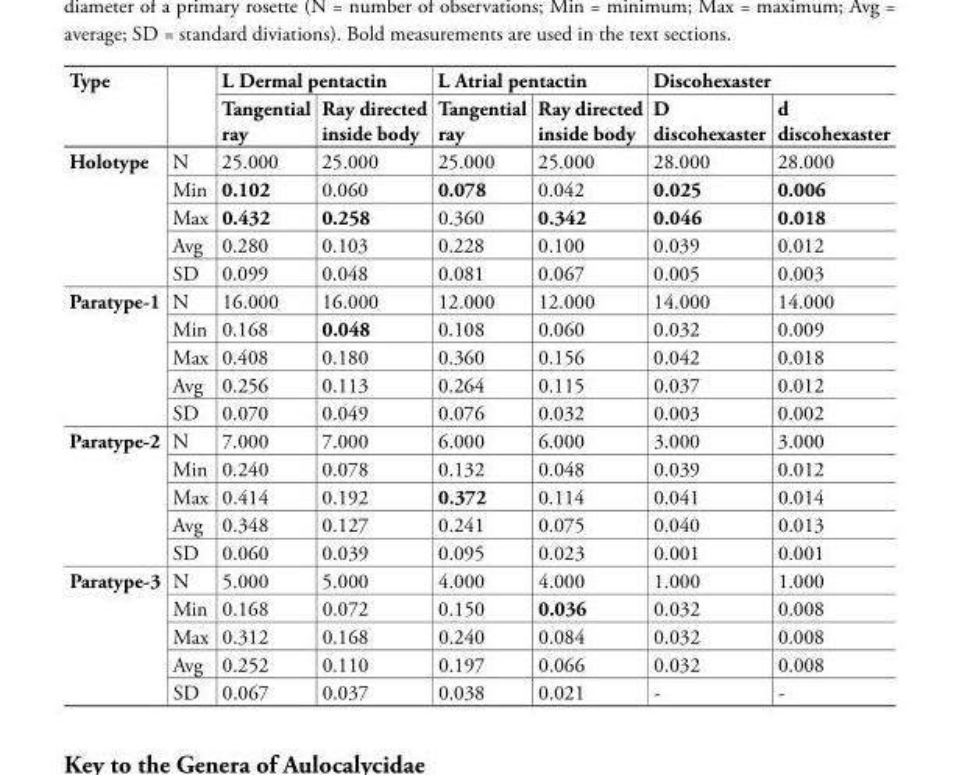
<table><thead><tr><td rowspan="2">Type</td><td rowspan="2"></td><td colspan="2">L Dermal pentactin</td><td colspan="2">L Atrial pentactin</td><td colspan="2">Discohexaster</td></tr><tr><td>Tangential ray</td><td>Ray directed inside body</td><td>Tangential ray</td><td>Ray directed inside body</td><td>D discohexaster</td><td>d discohexaster</td></tr></thead><tbody><tr><td rowspan="5">Holotype</td><td>N</td><td>25.000</td><td>25.000</td><td>25.000</td><td>25.000</td><td>28.000</td><td>28.000</td></tr><tr><td>Min</td><td>0.102</td><td>0.060</td><td>0.078</td><td>0.042</td><td>0.025</td><td>0.006</td></tr><tr><td>Max</td><td>0.432</td><td>0.258</td><td>0.360</td><td>0.342</td><td>0.046</td><td>0.018</td></tr><tr><td>Avg</td><td>0.280</td><td>0.103</td><td>0.228</td><td>0.100</td><td>0.039</td><td>0.012</td></tr><tr><td>SD</td><td>0.099</td><td>0.048</td><td>0.081</td><td>0.067</td><td>0.005</td><td>0.003</td></tr><tr><td rowspan="5">Paratype-1</td><td>N</td><td>16.000</td><td>16.000</td><td>12.000</td><td>12.000</td><td>14.000</td><td>14.000</td></tr><tr><td>Min</td><td>0.168</td><td>0.048</td><td>0.108</td><td>0.060</td><td>0.032</td><td>0.009</td></tr><tr><td>Max</td><td>0.408</td><td>0.180</td><td>0.360</td><td>0.156</td><td>0.042</td><td>0.018</td></tr><tr><td>Avg</td><td>0.256</td><td>0.113</td><td>0.264</td><td>0.115</td><td>0.037</td><td>0.012</td></tr><tr><td>SD</td><td>0.070</td><td>0.049</td><td>0.076</td><td>0.032</td><td>0.003</td><td>0.002</td></tr><tr><td rowspan="5">Paratype-2</td><td>N</td><td>7.000</td><td>7.000</td><td>6.000</td><td>6.000</td><td>3.000</td><td>3.000</td></tr><tr><td>Min</td><td>0.240</td><td>0.078</td><td>0.132</td><td>0.048</td><td>0.039</td><td>0.012</td></tr><tr><td>Max</td><td>0.414</td><td>0.192</td><td>0.372</td><td>0.114</td><td>0.041</td><td>0.014</td></tr><tr><td>Avg</td><td>0.348</td><td>0.127</td><td>0.241</td><td>0.075</td><td>0.040</td><td>0.013</td></tr><tr><td>SD</td><td>0.060</td><td>0.039</td><td>0.095</td><td>0.023</td><td>0.001</td><td>0.001</td></tr><tr><td rowspan="5">Paratype-3</td><td>N</td><td>5.000</td><td>5.000</td><td>4.000</td><td>4.000</td><td>1.000</td><td>1.000</td></tr><tr><td>Min</td><td>0.168</td><td>0.072</td><td>0.150</td><td>0.036</td><td>0.032</td><td>0.008</td></tr><tr><td>Max</td><td>0.312</td><td>0.168</td><td>0.240</td><td>0.084</td><td>0.032</td><td>0.008</td></tr><tr><td>Avg</td><td>0.252</td><td>0.110</td><td>0.197</td><td>0.066</td><td>0.032</td><td>0.008</td></tr><tr><td>SD</td><td>0.067</td><td>0.037</td><td>0.038</td><td>0.021</td><td>-</td><td>-</td></tr></tbody></table>